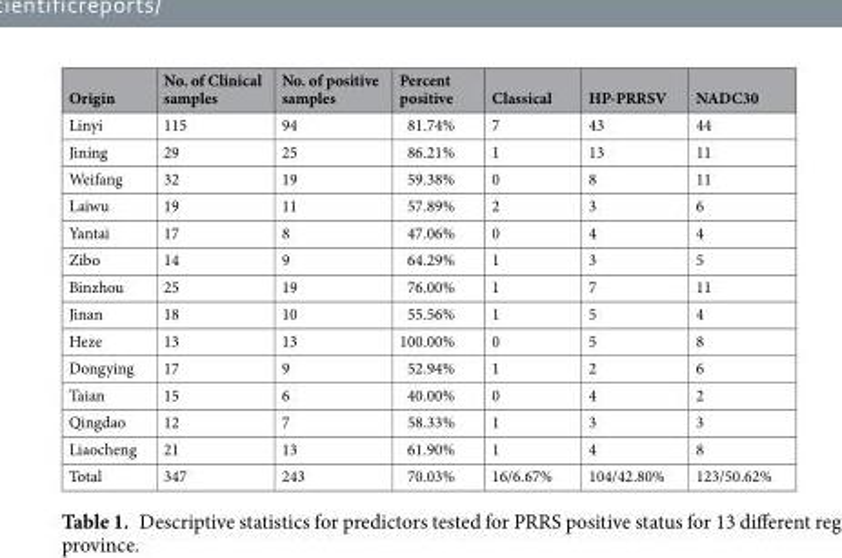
<table><thead><tr><td>Origin</td><td>No. of Clinical samples</td><td>No. of positive samples</td><td>Percent positive</td><td>Classical</td><td>HP-PRRSV</td><td>NADC30</td></tr></thead><tbody><tr><td>Linyi</td><td>115</td><td>94</td><td>81.74%</td><td>7</td><td>43</td><td>44</td></tr><tr><td>Jining</td><td>29</td><td>25</td><td>86.21%</td><td>1</td><td>13</td><td>11</td></tr><tr><td>Weifang</td><td>32</td><td>19</td><td>59.38%</td><td>0</td><td>8</td><td>11</td></tr><tr><td>Laiwu</td><td>19</td><td>11</td><td>57.89%</td><td>2</td><td>3</td><td>6</td></tr><tr><td>Yantai</td><td>17</td><td>8</td><td>47.06%</td><td>0</td><td>4</td><td>4</td></tr><tr><td>Zibo</td><td>14</td><td>9</td><td>64.29%</td><td>1</td><td>3</td><td>5</td></tr><tr><td>Binzhou</td><td>25</td><td>19</td><td>76.00%</td><td>1</td><td>7</td><td>11</td></tr><tr><td>Jinan</td><td>18</td><td>10</td><td>55.56%</td><td>1</td><td>5</td><td>4</td></tr><tr><td>Heze</td><td>13</td><td>13</td><td>100.00%</td><td>0</td><td>5</td><td>8</td></tr><tr><td>Dongying</td><td>17</td><td>9</td><td>52.94%</td><td>1</td><td>2</td><td>6</td></tr><tr><td>Taian</td><td>15</td><td>6</td><td>40.00%</td><td>0</td><td>4</td><td>2</td></tr><tr><td>Qingdao</td><td>12</td><td>7</td><td>58.33%</td><td>1</td><td>3</td><td>3</td></tr><tr><td>Liaocheng</td><td>21</td><td>13</td><td>61.90%</td><td>1</td><td>4</td><td>8</td></tr><tr><td>Total</td><td>347</td><td>243</td><td>70.03%</td><td>16/6.67%</td><td>104/42.80%</td><td>123/50.62%</td></tr></tbody></table>